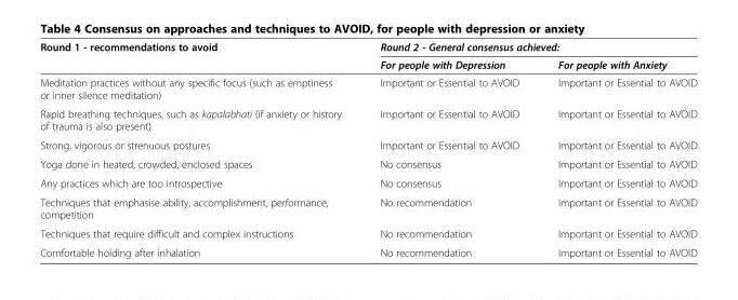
<table><thead><tr><td rowspan="2">Round 1 - recommendations to avoid</td><td colspan="2">Round 2 - General consensus achieved:</td></tr><tr><td>For people with Depression</td><td>For people with Anxiety</td></tr></thead><tbody><tr><td>Meditation practices without any specific focus (such as emptiness or inner silence meditation)</td><td>Important or Essential to AVOID</td><td>Important or Essential to AVOID</td></tr><tr><td>Rapid breathing techniques, such as kapalabhati (if anxiety or history of trauma is also present)</td><td>Important or Essential to AVOID</td><td>Important or Essential to AVOID</td></tr><tr><td>Strong, vigorous or strenuous postures</td><td>Important or Essential to AVOID</td><td>Important or Essential to AVOID</td></tr><tr><td>Yoga done in heated, crowded, enclosed spaces</td><td>No consensus</td><td>Important or Essential to AVOID</td></tr><tr><td>Any practices which are too introspective</td><td>No consensus</td><td>Important or Essential to AVOID</td></tr><tr><td>Techniques that emphasise ability, accomplishment, performance, competition</td><td>No recommendation</td><td>Important or Essential to AVOID</td></tr><tr><td>Techniques that require difficult and complex instructions</td><td>No recommendation</td><td>Important or Essential to AVOID</td></tr><tr><td>Comfortable holding after inhalation</td><td>No recommendation</td><td>Important or Essential to AVOID</td></tr></tbody></table>